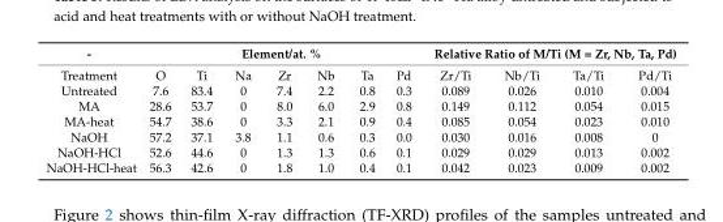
<table><thead><tr><td rowspan="2">- Treatment</td><td colspan="7">Element/at. %</td><td colspan="4">Relative Ratio of M/Ti (M = Zr, Nb, Ta, Pd)</td></tr><tr><td>O</td><td>Ti</td><td>Na</td><td>Zr</td><td>Nb</td><td>Ta</td><td>Pd</td><td>Zr/Ti</td><td>Nb/Ti</td><td>Ta/Ti</td><td>Pd/Ti</td></tr></thead><tbody><tr><td>Untreated</td><td>7.6</td><td>83.4</td><td>0</td><td>7.4</td><td>2.2</td><td>0.8</td><td>0.3</td><td>0.089</td><td>0.026</td><td>0.010</td><td>0.004</td></tr><tr><td>MA</td><td>28.6</td><td>53.7</td><td>0</td><td>8.0</td><td>6.0</td><td>2.9</td><td>0.8</td><td>0.149</td><td>0.112</td><td>0.054</td><td>0.015</td></tr><tr><td>MA-heat</td><td>54.7</td><td>38.6</td><td>0</td><td>3.3</td><td>2.1</td><td>0.9</td><td>0.4</td><td>0.085</td><td>0.054</td><td>0.023</td><td>0.010</td></tr><tr><td>NaOH</td><td>57.2</td><td>37.1</td><td>3.8</td><td>1.1</td><td>0.6</td><td>0.3</td><td>0.0</td><td>0.030</td><td>0.016</td><td>0.008</td><td>0</td></tr><tr><td>NaOH-HCl</td><td>52.6</td><td>44.6</td><td>0</td><td>1.3</td><td>1.3</td><td>0.6</td><td>0.1</td><td>0.029</td><td>0.029</td><td>0.013</td><td>0.002</td></tr><tr><td>NaOH-HCl-heat</td><td>56.3</td><td>42.6</td><td>0</td><td>1.8</td><td>1.0</td><td>0.4</td><td>0.1</td><td>0.042</td><td>0.023</td><td>0.009</td><td>0.002</td></tr></tbody></table>